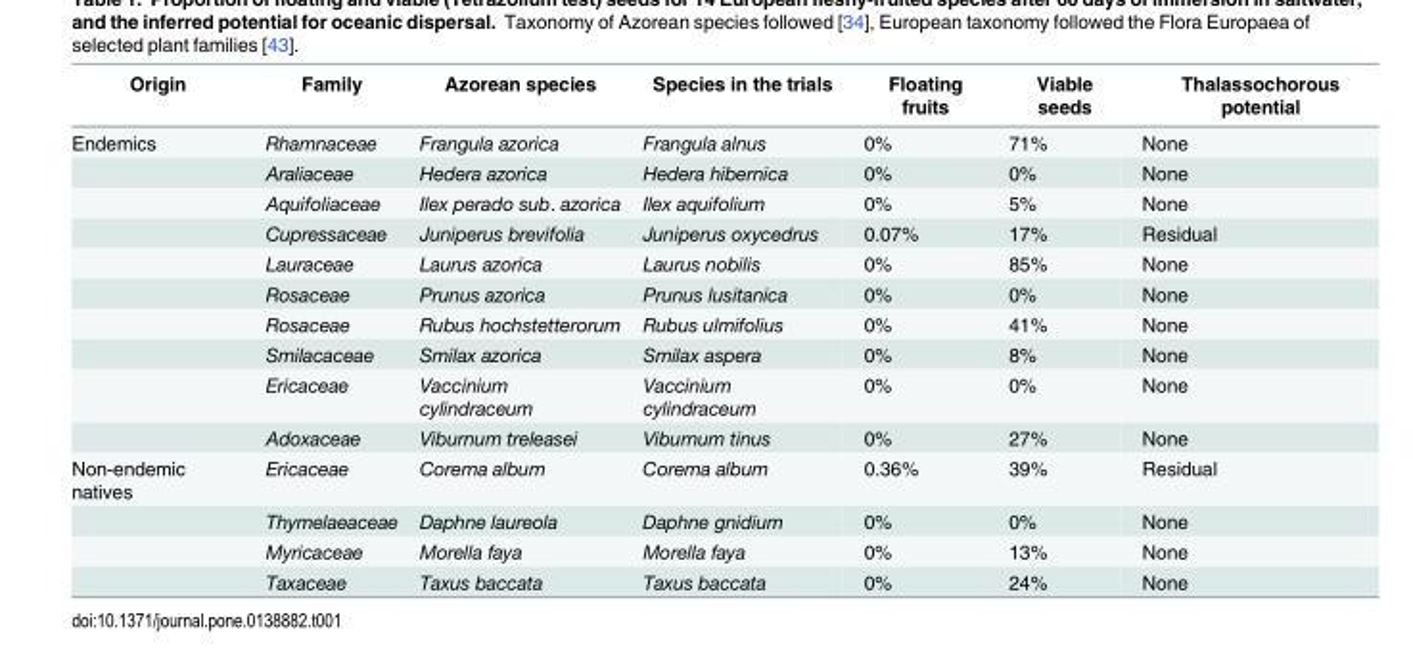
<table><thead><tr><td>Origin</td><td>Family</td><td>Azorean species</td><td>Species in the trials</td><td>Floating fruits</td><td>Viable seeds</td><td>Thalassochorous potential</td></tr></thead><tbody><tr><td rowspan="10">Endemics</td><td>Rhamnaceae</td><td>Frangula azorica</td><td>Frangula alnus</td><td>0%</td><td>71%</td><td>None</td></tr><tr><td>Araliaceae</td><td>Hedera azorica</td><td>Hedera hibernica</td><td>0%</td><td>0%</td><td>None</td></tr><tr><td>Aquifoliaceae</td><td>Ilex perado sub. azorica</td><td>Ilex aquifolium</td><td>0%</td><td>5%</td><td>None</td></tr><tr><td>Cupressaceae</td><td>Juniperus brevifolia</td><td>Juniperus oxycedrus</td><td>0.07%</td><td>17%</td><td>Residual</td></tr><tr><td>Lauraceae</td><td>Laurus azorica</td><td>Laurus nobilis</td><td>0%</td><td>85%</td><td>None</td></tr><tr><td>Rosaceae</td><td>Prunus azorica</td><td>Prunus lusitanica</td><td>0%</td><td>0%</td><td>None</td></tr><tr><td>Rosaceae</td><td>Rubus hochstetterorum</td><td>Rubus ulmifolius</td><td>0%</td><td>41%</td><td>None</td></tr><tr><td>Smilacaceae</td><td>Smilax azorica</td><td>Smilax aspera</td><td>0%</td><td>8%</td><td>None</td></tr><tr><td>Ericaceae</td><td>Vaccinium cylindraceum</td><td>Vaccinium cylindraceum</td><td>0%</td><td>0%</td><td>None</td></tr><tr><td>Adoxaceae</td><td>Viburnum treleasei</td><td>Viburnum tinus</td><td>0%</td><td>27%</td><td>None</td></tr><tr><td rowspan="4">Non-endemic natives</td><td>Ericaceae</td><td>Corema album</td><td>Corema album</td><td>0.36%</td><td>39%</td><td>Residual</td></tr><tr><td>Thymelaeaceae</td><td>Daphne laureola</td><td>Daphne gnidium</td><td>0%</td><td>0%</td><td>None</td></tr><tr><td>Myricaceae</td><td>Morella faya</td><td>Morella faya</td><td>0%</td><td>13%</td><td>None</td></tr><tr><td>Taxaceae</td><td>Taxus baccata</td><td>Taxus baccata</td><td>0%</td><td>24%</td><td>None</td></tr></tbody></table>